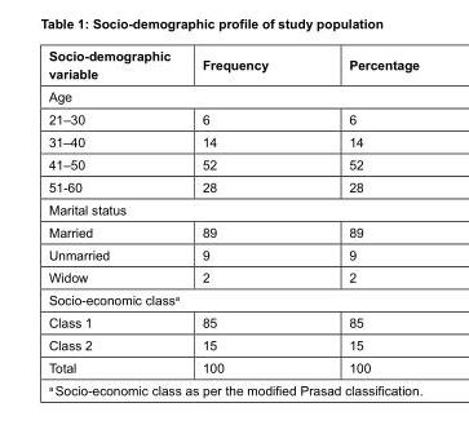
<table><thead><tr><td>Socio-demographic variable</td><td>Frequency</td><td>Percentage</td></tr></thead><tbody><tr><td colspan="3">Age</td></tr><tr><td>21–30</td><td>6</td><td>6</td></tr><tr><td>31–40</td><td>14</td><td>14</td></tr><tr><td>41–50</td><td>52</td><td>52</td></tr><tr><td>51-60</td><td>28</td><td>28</td></tr><tr><td colspan="3">Marital status</td></tr><tr><td>Married</td><td>89</td><td>89</td></tr><tr><td>Unmarried</td><td>9</td><td>9</td></tr><tr><td>Widow</td><td>2</td><td>2</td></tr><tr><td colspan="3">Socio-economic class<sup>a</sup></td></tr><tr><td>Class 1</td><td>85</td><td>85</td></tr><tr><td>Class 2</td><td>15</td><td>15</td></tr><tr><td>Total</td><td>100</td><td>100</td></tr></tbody></table>